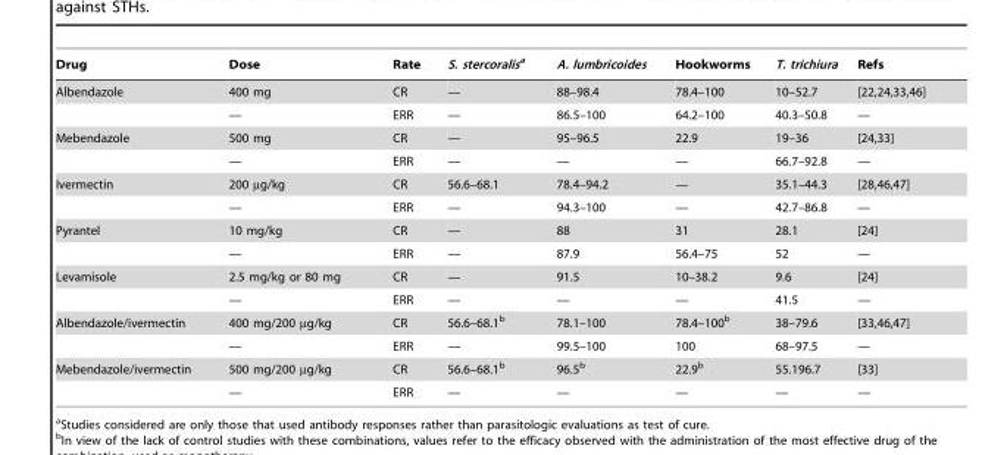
<table><thead><tr><td>Drug</td><td>Dose</td><td>Rate</td><td>S. stercoralisa</td><td>A. lumbricoides</td><td>Hookworms</td><td>T. trichiura</td><td>Refs</td></tr></thead><tbody><tr><td rowspan="2">Albendazole</td><td>400 mg</td><td>CR</td><td>—</td><td>88–98.4</td><td>78.4–100</td><td>10–52.7</td><td>[22,24,33,46]</td></tr><tr><td>—</td><td>ERR</td><td>—</td><td>86.5–100</td><td>64.2–100</td><td>40.3–50.8</td><td>—</td></tr><tr><td rowspan="2">Mebendazole</td><td>500 mg</td><td>CR</td><td>—</td><td>95–96.5</td><td>22.9</td><td>19–36</td><td>[24,33]</td></tr><tr><td>—</td><td>ERR</td><td>—</td><td>—</td><td>—</td><td>66.7–92.8</td><td>—</td></tr><tr><td rowspan="2">Ivermectin</td><td>200 µg/kg</td><td>CR</td><td>56.6–68.1</td><td>78.4–94.2</td><td>—</td><td>35.1–44.3</td><td>[28,46,47]</td></tr><tr><td>—</td><td>ERR</td><td>—</td><td>94.3–100</td><td>—</td><td>42.7–86.8</td><td>—</td></tr><tr><td rowspan="2">Pyrantel</td><td>10 mg/kg</td><td>CR</td><td>—</td><td>88</td><td>31</td><td>28.1</td><td>[24]</td></tr><tr><td>—</td><td>ERR</td><td>—</td><td>87.9</td><td>56.4–75</td><td>52</td><td>—</td></tr><tr><td rowspan="2">Levamisole</td><td>2.5 mg/kg or 80 mg</td><td>CR</td><td>—</td><td>91.5</td><td>10–38.2</td><td>9.6</td><td>[24]</td></tr><tr><td>—</td><td>ERR</td><td>—</td><td>—</td><td>—</td><td>41.5</td><td>—</td></tr><tr><td rowspan="2">Albendazole/ivermectin</td><td>400 mg/200 µg/kg</td><td>CR</td><td>56.6–68.1<sup>b</sup></td><td>78.1–100</td><td>78.4–100<sup>b</sup></td><td>38–79.6</td><td>[33,46,47]</td></tr><tr><td>—</td><td>ERR</td><td>—</td><td>99.5–100</td><td>100</td><td>68–97.5</td><td>—</td></tr><tr><td rowspan="2">Mebendazole/ivermectin</td><td>500 mg/200 µg/kg</td><td>CR</td><td>56.6–68.1<sup>b</sup></td><td>96.5<sup>b</sup></td><td>22.9<sup>b</sup></td><td>55.196.7</td><td>[33]</td></tr><tr><td>—</td><td>ERR</td><td>—</td><td>—</td><td>—</td><td>—</td><td>—</td></tr></tbody></table>